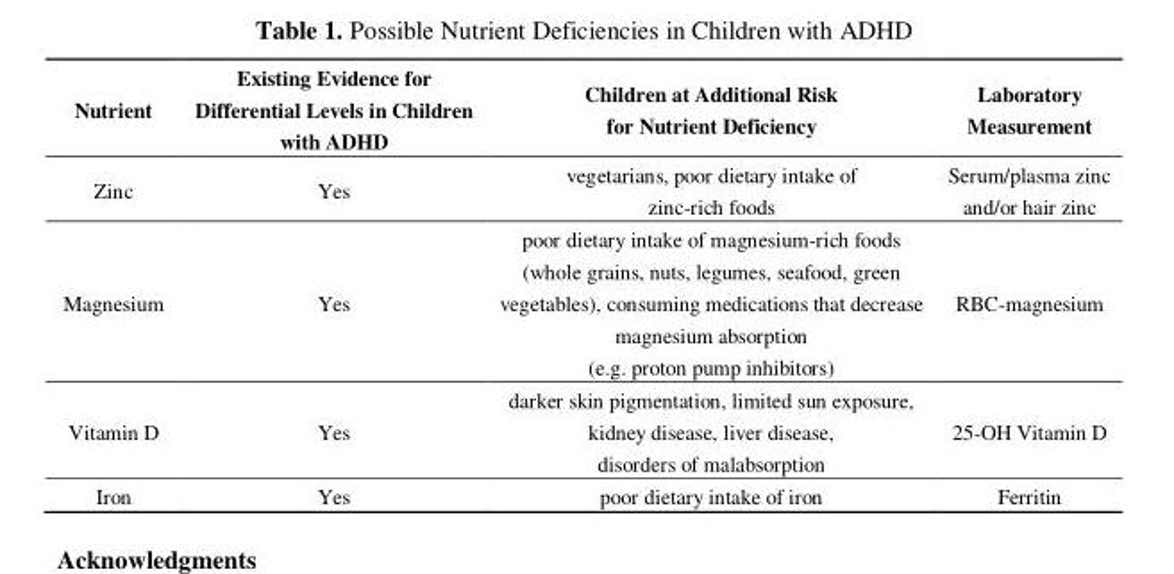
<table><thead><tr><td>Nutrient</td><td>Existing Evidence for Differential Levels in Children with ADHD</td><td>Children at Additional Risk for Nutrient Deficiency</td><td>Laboratory Measurement</td></tr></thead><tbody><tr><td>Zinc</td><td>Yes</td><td>vegetarians, poor dietary intake of zinc-rich foods</td><td>Serum/plasma zinc and/or hair zinc</td></tr><tr><td>Magnesium</td><td>Yes</td><td>poor dietary intake of magnesium-rich foods (whole grains, nuts, legumes, seafood, green vegetables), consuming medications that decrease magnesium absorption (e.g. proton pump inhibitors)</td><td>RBC-magnesium</td></tr><tr><td>Vitamin D</td><td>Yes</td><td>darker skin pigmentation, limited sun exposure, kidney disease, liver disease, disorders of malabsorption</td><td>25-OH Vitamin D</td></tr><tr><td>Iron</td><td>Yes</td><td>poor dietary intake of iron</td><td>Ferritin</td></tr></tbody></table>